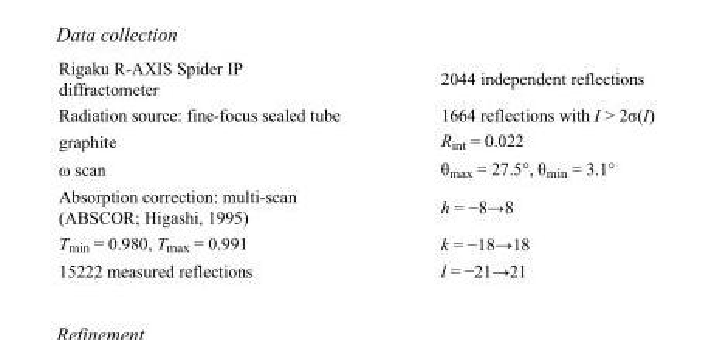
<table><tbody><tr><td>Rigaku R-AXIS Spider IP diffractometer</td><td>2044 independent reflections</td></tr><tr><td>Radiation source: fine-focus sealed tube</td><td>1664 reflections with I &gt; 2σ(I)</td></tr><tr><td>graphite</td><td>R<sub>int</sub> = 0.022</td></tr><tr><td>ω scan</td><td>θ<sub>max</sub> = 27.5°, θ<sub>min</sub> = 3.1°</td></tr><tr><td>Absorption correction: multi-scan (ABSCOR; Higashi, 1995)</td><td>h = −8→8</td></tr><tr><td>T<sub>min</sub> = 0.980, T<sub>max</sub> = 0.991</td><td>k = −18→18</td></tr><tr><td>15222 measured reflections</td><td>l = −21→21</td></tr></tbody></table>